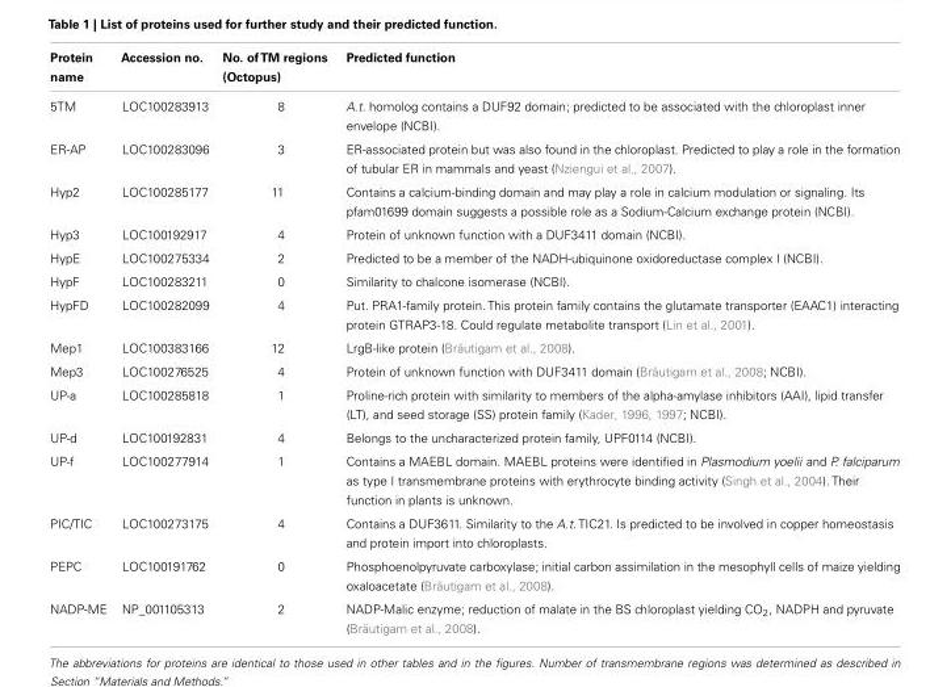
<table><thead><tr><td>Protein name</td><td>Accession no.</td><td>No. ofTM regions (Octopus)</td><td>Predicted function</td></tr></thead><tbody><tr><td>5TM</td><td>LOC100283913</td><td>8</td><td>A.t. homolog contains a DUF92 domain; predicted to be associated with the chloroplast inner envelope (NCBI).</td></tr><tr><td>ER-AP</td><td>LOC100283096</td><td>3</td><td>ER-associated protein but was also found in the chloroplast. Predicted to play a role in the formation of tubular ER in mammals and yeast (Nziengui et al., 2007).</td></tr><tr><td>Hyp2</td><td>LOC100285177</td><td>11</td><td>Contains a calcium-binding domain and may play a role in calcium modulation or signaling. Its pfam01699 domain suggests a possible role as a Sodium-Calcium exchange protein (NCBI).</td></tr><tr><td>Hyp3</td><td>LOC100192917</td><td>4</td><td>Protein of unknown function with a DUF3411 domain (NCBI).</td></tr><tr><td>HypE</td><td>LOC100275334</td><td>2</td><td>Predicted to be a member of the NADH-ubiquinone oxidoreductase complex I (NCBI).</td></tr><tr><td>HypF</td><td>LOC100283211</td><td>0</td><td>Similarity to chalcone isomerase (NCBI).</td></tr><tr><td>HypFD</td><td>LOC100282099</td><td>4</td><td>Put. PRA1-family protein. This protein family contains the glutamate transporter (EAAC1) interacting protein GTRAP3-18. Could regulate metabolite transport (Lin et al., 2001).</td></tr><tr><td>Mep1</td><td>LOC100383166</td><td>12</td><td>LrgB-like protein (Bräutigam et al., 2008).</td></tr><tr><td>Mep3</td><td>LOC100276525</td><td>4</td><td>Protein of unknown function with DUF3411 domain (Bräutigam et al., 2008; NCBI).</td></tr><tr><td>UP-a</td><td>LOC100285818</td><td>1</td><td>Proline-rich protein with similarity to members of the alpha-amylase inhibitors (AAI), lipid transfer (LT), and seed storage (SS) protein family (Kader, 1996, 1997; NCBI).</td></tr><tr><td>UP-d</td><td>LOC100192831</td><td>4</td><td>Belongs to the uncharacterized protein family, UPF0114 (NCBI).</td></tr><tr><td>UP-f</td><td>LOC100277914</td><td>1</td><td>Contains a MAEBL domain. MAEBL proteins were identified in Plasmodium yoelii and P. falciparum as type I transmembrane proteins with erythrocyte binding activity (Singh et al., 2004). Their function in plants is unknown.</td></tr><tr><td>PIC/TIC</td><td>LOC100273175</td><td>4</td><td>Contains a DUF3611. Similarity to the A.t. TIC21. Is predicted to be involved in copper homeostasis and protein import into chloroplasts.</td></tr><tr><td>PEPC</td><td>LOC100191762</td><td>0</td><td>Phosphoenolpyruvate carboxylase; initial carbon assimilation in the mesophyll cells of maize yielding oxaloacetate (Bräutigam et al., 2008).</td></tr><tr><td>NADP-ME</td><td>NP_001105313</td><td>2</td><td>NADP-Malic enzyme; reduction of malate in the BS chloroplast yielding CO<sub>2</sub>, NADPH and pyruvate (Bräutigam et al., 2008).</td></tr></tbody></table>